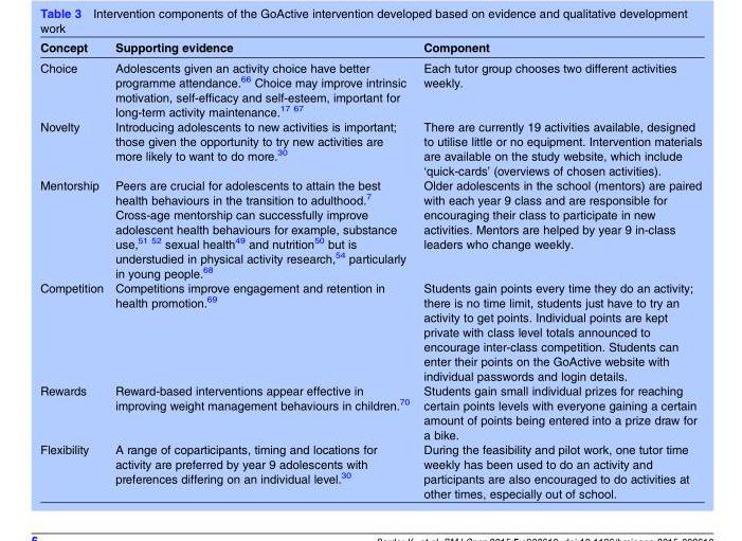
<table><thead><tr><td>Concept</td><td>Supporting evidence</td><td>Component</td></tr></thead><tbody><tr><td>Choice</td><td>Adolescents given an activity choice have better programme attendance.<sup>66</sup> Choice may improve intrinsic motivation, self-efficacy and self-esteem, important for long-term activity maintenance.<sup>17 67</sup></td><td>Each tutor group chooses two different activities weekly.</td></tr><tr><td>Novelty</td><td>Introducing adolescents to new activities is important; those given the opportunity to try new activities are more likely to want to do more.<sup>30</sup></td><td>There are currently 19 activities available, designed to utilise little or no equipment. Intervention materials are available on the study website, which include ‘quick-cards’ (overviews of chosen activities).</td></tr><tr><td>Mentorship</td><td>Peers are crucial for adolescents to attain the best health behaviours in the transition to adulthood.<sup>7</sup> Cross-age mentorship can successfully improve adolescent health behaviours for example, substance use,<sup>51 52</sup> sexual health<sup>49</sup> and nutrition<sup>50</sup> but is understudied in physical activity research,<sup>54</sup> particularly in young people.<sup>68</sup></td><td>Older adolescents in the school (mentors) are paired with each year 9 class and are responsible for encouraging their class to participate in new activities. Mentors are helped by year 9 in-class leaders who change weekly.</td></tr><tr><td>Competition</td><td>Competitions improve engagement and retention in health promotion.<sup>69</sup></td><td>Students gain points every time they do an activity; there is no time limit, students just have to try an activity to get points. Individual points are kept private with class level totals announced to encourage inter-class competition. Students can enter their points on the GoActive website with individual passwords and login details.</td></tr><tr><td>Rewards</td><td>Reward-based interventions appear effective in improving weight management behaviours in children.<sup>70</sup></td><td>Students gain small individual prizes for reaching certain points levels with everyone gaining a certain amount of points being entered into a prize draw for a bike.</td></tr><tr><td>Flexibility</td><td>A range of coparticipants, timing and locations for activity are preferred by year 9 adolescents with preferences differing on an individual level.<sup>30</sup></td><td>During the feasibility and pilot work, one tutor time weekly has been used to do an activity and participants are also encouraged to do activities at other times, especially out of school.</td></tr></tbody></table>